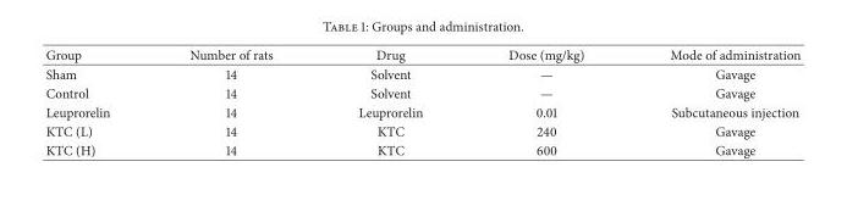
<table><thead><tr><td>Group</td><td>Number of rats</td><td>Drug</td><td>Dose (mg/kg)</td><td>Mode of administration</td></tr></thead><tbody><tr><td>Sham</td><td>14</td><td>Solvent</td><td>—</td><td>Gavage</td></tr><tr><td>Control</td><td>14</td><td>Solvent</td><td>—</td><td>Gavage</td></tr><tr><td>Leuprorelin</td><td>14</td><td>Leuprorelin</td><td>0.01</td><td>Subcutaneous injection</td></tr><tr><td>KTC (L)</td><td>14</td><td>KTC</td><td>240</td><td>Gavage</td></tr><tr><td>KTC (H)</td><td>14</td><td>KTC</td><td>600</td><td>Gavage</td></tr></tbody></table>